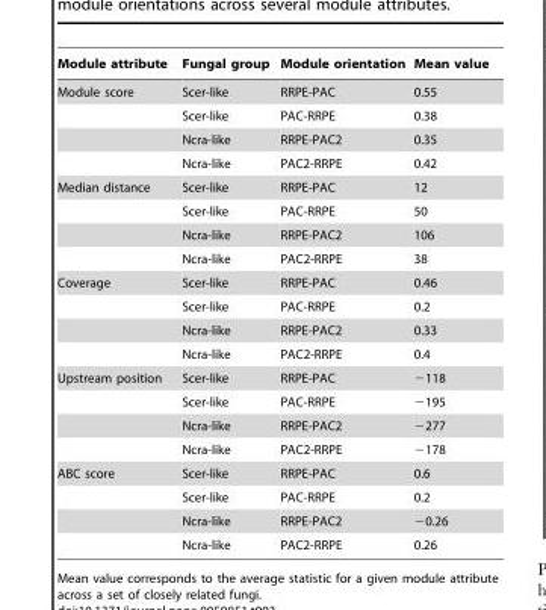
<table><thead><tr><td>Module attribute</td><td>Fungal group</td><td>Module orientation</td><td>Mean value</td></tr></thead><tbody><tr><td rowspan="4">Module score</td><td>Scer-like</td><td>RRPE-PAC</td><td>0.55</td></tr><tr><td>Scer-like</td><td>PAC-RRPE</td><td>0.38</td></tr><tr><td>Ncra-like</td><td>RRPE-PAC2</td><td>0.35</td></tr><tr><td>Ncra-like</td><td>PAC2-RRPE</td><td>0.42</td></tr><tr><td rowspan="4">Median distance</td><td>Scer-like</td><td>RRPE-PAC</td><td>12</td></tr><tr><td>Scer-like</td><td>PAC-RRPE</td><td>50</td></tr><tr><td>Ncra-like</td><td>RRPE-PAC2</td><td>106</td></tr><tr><td>Ncra-like</td><td>PAC2-RRPE</td><td>38</td></tr><tr><td rowspan="4">Coverage</td><td>Scer-like</td><td>RRPE-PAC</td><td>0.46</td></tr><tr><td>Scer-like</td><td>PAC-RRPE</td><td>0.2</td></tr><tr><td>Ncra-like</td><td>RRPE-PAC2</td><td>0.33</td></tr><tr><td>Ncra-like</td><td>PAC2-RRPE</td><td>0.4</td></tr><tr><td rowspan="4">Upstream position</td><td>Scer-like</td><td>RRPE-PAC</td><td>−118</td></tr><tr><td>Scer-like</td><td>PAC-RRPE</td><td>−195</td></tr><tr><td>Ncra-like</td><td>RRPE-PAC2</td><td>−277</td></tr><tr><td>Ncra-like</td><td>PAC2-RRPE</td><td>−178</td></tr><tr><td rowspan="4">ABC score</td><td>Scer-like</td><td>RRPE-PAC</td><td>0.6</td></tr><tr><td>Scer-like</td><td>PAC-RRPE</td><td>0.2</td></tr><tr><td>Ncra-like</td><td>RRPE-PAC2</td><td>−0.26</td></tr><tr><td>Ncra-like</td><td>PAC2-RRPE</td><td>0.26</td></tr></tbody></table>